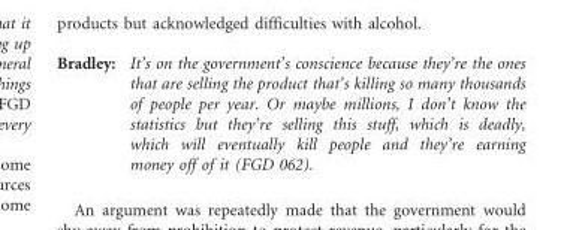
<table><tbody><tr><td>Bradley:</td><td>It’s on the government’s conscience because they’re the ones that are selling the product that’s killing so many thousands of people per year. Or maybe millions, I don’t know the statistics but they’re selling this stuff, which is deadly, which will eventually kill people and they’re earning money off of it (FGD 062).</td></tr></tbody></table>